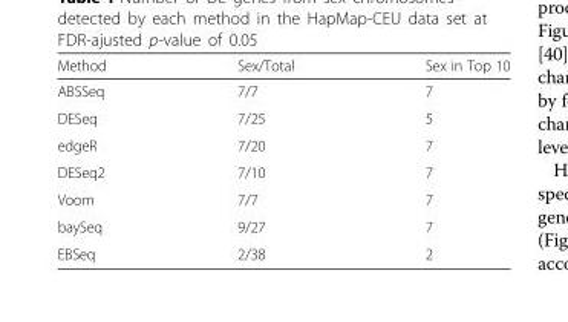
<table><thead><tr><td>Method</td><td>Sex/Total</td><td>Sex in Top 10</td></tr></thead><tbody><tr><td>ABSSeq</td><td>7/7</td><td>7</td></tr><tr><td>DESeq</td><td>7/25</td><td>5</td></tr><tr><td>edgeR</td><td>7/20</td><td>7</td></tr><tr><td>DESeq2</td><td>7/10</td><td>7</td></tr><tr><td>Voom</td><td>7/7</td><td>7</td></tr><tr><td>baySeq</td><td>9/27</td><td>7</td></tr><tr><td>EBSeq</td><td>2/38</td><td>2</td></tr></tbody></table>